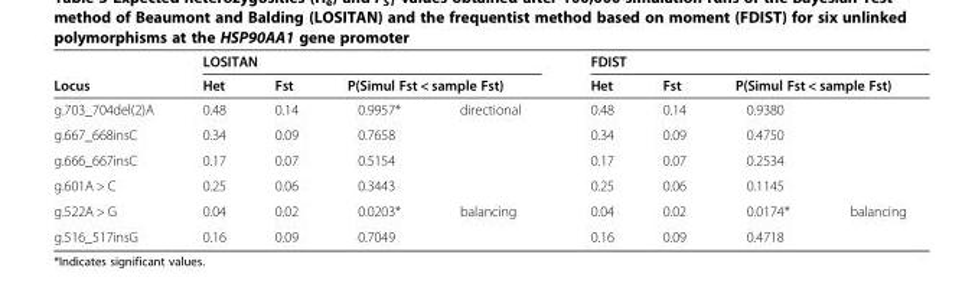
<table><thead><tr><td rowspan="3">Locus g.703_704del(2)A</td><td colspan="4">LOSITAN</td><td colspan="4">FDIST</td></tr><tr><td rowspan="2">Het 0.48</td><td rowspan="2">Fst 0.14</td><td colspan="2">P(Simul Fst &lt; sample Fst)</td><td rowspan="2">Het 0.48</td><td rowspan="2">Fst 0.14</td><td colspan="2">P(Simul Fst &lt; sample Fst)</td></tr><tr><td>0.9957*</td><td>directional</td><td>0.9380</td><td></td></tr></thead><tbody><tr><td>g.667_668insC</td><td>0.34</td><td>0.09</td><td>0.7658</td><td></td><td>0.34</td><td>0.09</td><td>0.4750</td><td></td></tr><tr><td>g.666_667insC</td><td>0.17</td><td>0.07</td><td>0.5154</td><td></td><td>0.17</td><td>0.07</td><td>0.2534</td><td></td></tr><tr><td>g.601A &gt; C</td><td>0.25</td><td>0.06</td><td>0.3443</td><td></td><td>0.25</td><td>0.06</td><td>0.1145</td><td></td></tr><tr><td>g.522A &gt; G</td><td>0.04</td><td>0.02</td><td>0.0203*</td><td>balancing</td><td>0.04</td><td>0.02</td><td>0.0174*</td><td>balancing</td></tr><tr><td>g.516_517insG</td><td>0.16</td><td>0.09</td><td>0.7049</td><td></td><td>0.16</td><td>0.09</td><td>0.4718</td><td></td></tr></tbody></table>